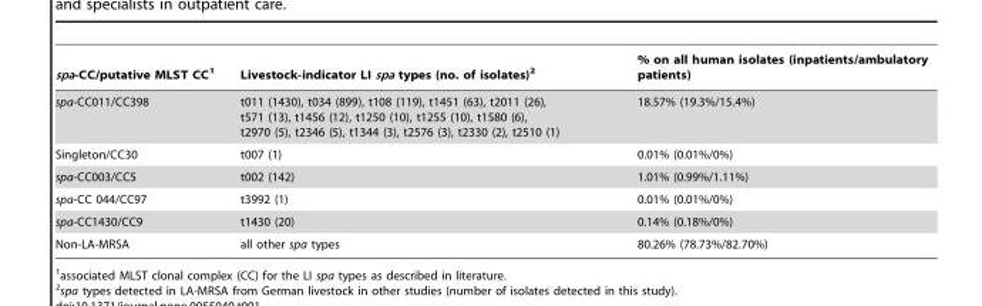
<table><thead><tr><td>spa-CC/putative MLST CC<sup>1</sup></td><td>Livestock-indicator LI spa types (no. of isolates)<sup>2</sup></td><td>% on all human isolates (inpatients/ambulatory patients)</td></tr></thead><tbody><tr><td>spa-CC011/CC398</td><td>t011 (1430), t034 (899), t108 (119), t1451 (63), t2011 (26), t571 (13), t1456 (12), t1250 (10), t1255 (10), t1580 (6), t2970 (5), t2346 (5), t1344 (3), t2576 (3), t2330 (2), t2510 (1)</td><td>18.57% (19.3%/15.4%)</td></tr><tr><td>Singleton/CC30</td><td>t007 (1)</td><td>0.01% (0.01%/0%)</td></tr><tr><td>spa-CC003/CC5</td><td>t002 (142)</td><td>1.01% (0.99%/1.11%)</td></tr><tr><td>spa-CC 044/CC97</td><td>t3992 (1)</td><td>0.01% (0.01%/0%)</td></tr><tr><td>spa-CC1430/CC9</td><td>t1430 (20)</td><td>0.14% (0.18%/0%)</td></tr><tr><td>Non-LA-MRSA</td><td>all other spa types</td><td>80.26% (78.73%/82.70%)</td></tr></tbody></table>